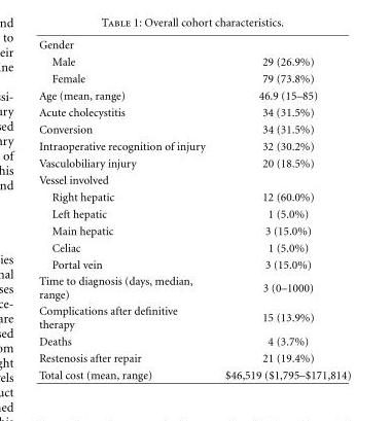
<table><tbody><tr><td colspan="2">Gender</td></tr><tr><td>Male</td><td>29 (26.9%)</td></tr><tr><td>Female</td><td>79 (73.8%)</td></tr><tr><td>Age (mean, range)</td><td>46.9 (15–85)</td></tr><tr><td>Acute cholecystitis</td><td>34 (31.5%)</td></tr><tr><td>Conversion</td><td>34 (31.5%)</td></tr><tr><td>Intraoperative recognition of injury</td><td>32 (30.2%)</td></tr><tr><td>Vasculobiliary injury</td><td>20 (18.5%)</td></tr><tr><td colspan="2">Vessel involved</td></tr><tr><td>Right hepatic</td><td>12 (60.0%)</td></tr><tr><td>Left hepatic</td><td>1 (5.0%)</td></tr><tr><td>Main hepatic</td><td>3 (15.0%)</td></tr><tr><td>Celiac</td><td>1 (5.0%)</td></tr><tr><td>Portal vein</td><td>3 (15.0%)</td></tr><tr><td>Time to diagnosis (days, median, range)</td><td>3 (0–1000)</td></tr><tr><td>Complications after definitive therapy</td><td>15 (13.9%)</td></tr><tr><td>Deaths</td><td>4 (3.7%)</td></tr><tr><td>Restenosis after repair</td><td>21 (19.4%)</td></tr><tr><td>Total cost (mean, range)</td><td>$46,519 ($1,795–$171,814)</td></tr></tbody></table>